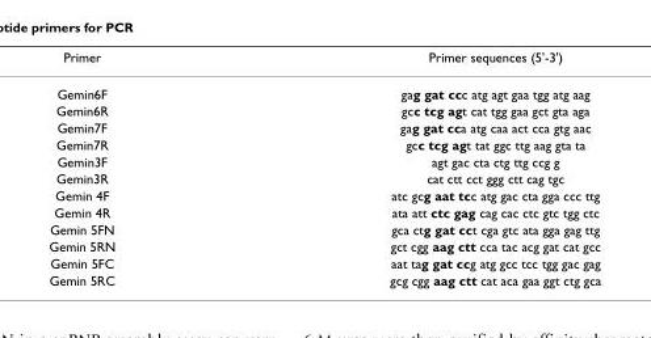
<table><thead><tr><td>Primer</td><td>Primer sequences (5&#x27;-3&#x27;)</td></tr></thead><tbody><tr><td>Gemin6F</td><td>gag gat ccc atg agt gaa tgg atg aag</td></tr><tr><td>Gemin6R</td><td>gcc tcg agt cat tgg gaa gct gta aga</td></tr><tr><td>Gemin7F</td><td>gag gat cca atg caa act cca gtg aac</td></tr><tr><td>Gemin7R</td><td>gcc tcg agt tat ggc ttg aag gta ta</td></tr><tr><td>Gemin3F</td><td>agt gac cta ctg ttg ccg g</td></tr><tr><td>Gemin3R</td><td>cat ctt cct ggg ctt cag tgc</td></tr><tr><td>Gemin 4F</td><td>atc gcg aat tcc atg gac cta gga ccc ttg</td></tr><tr><td>Gemin 4R</td><td>ata att ctc gag cag cac ctc gtc tgg ctc</td></tr><tr><td>Gemin 5FN</td><td>gca ctg gat cct cga gtc ata gga gag ttg</td></tr><tr><td>Gemin 5RN</td><td>gct cgg aag ctt cca tac acg gat cat gcc</td></tr><tr><td>Gemin 5FC</td><td>aat tag gat ccg atg gcc tcc tgg gac gag</td></tr><tr><td>Gemin 5RC</td><td>gcg cgg aag ctt cat aca gaa ggt ctg gca</td></tr></tbody></table>